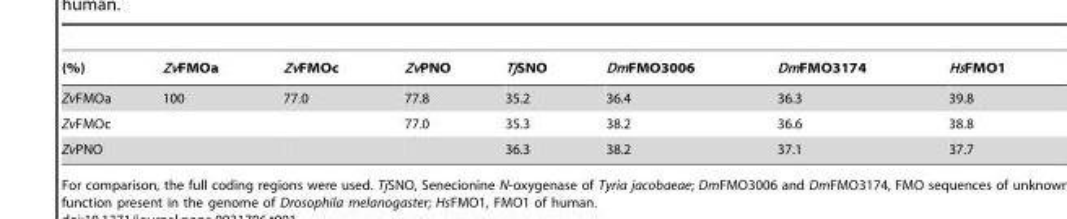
<table><thead><tr><td>(%)</td><td>ZvFMOa</td><td>ZvFMOc</td><td>ZvPNO</td><td>TjSNO</td><td>DmFMO3006</td><td>DmFMO3174</td><td>HsFMO1</td></tr></thead><tbody><tr><td>ZvFMOa</td><td>100</td><td>77.0</td><td>77.8</td><td>35.2</td><td>36.4</td><td>36.3</td><td>39.8</td></tr><tr><td>ZvFMOc</td><td></td><td></td><td>77.0</td><td>35.3</td><td>38.2</td><td>36.6</td><td>38.8</td></tr><tr><td>ZvPNO</td><td></td><td></td><td></td><td>36.3</td><td>38.2</td><td>37.1</td><td>37.7</td></tr></tbody></table>